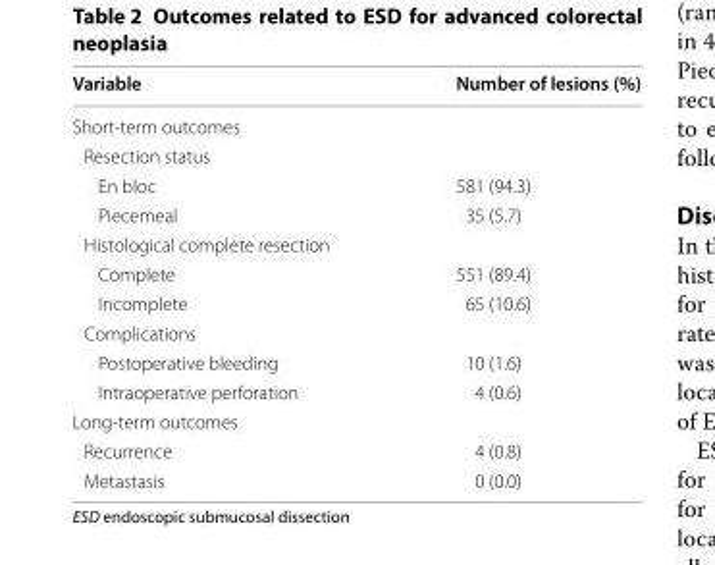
<table><thead><tr><td>Variable</td><td>Number of lesions (%)</td></tr></thead><tbody><tr><td colspan="2">Short‑term outcomes</td></tr><tr><td colspan="2">Resection status</td></tr><tr><td>En bloc</td><td>581 (94.3)</td></tr><tr><td>Piecemeal</td><td>35 (5.7)</td></tr><tr><td colspan="2">Histological complete resection</td></tr><tr><td>Complete</td><td>551 (89.4)</td></tr><tr><td>Incomplete</td><td>65 (10.6)</td></tr><tr><td colspan="2">Complications</td></tr><tr><td>Postoperative bleeding</td><td>10 (1.6)</td></tr><tr><td>Intraoperative perforation</td><td>4 (0.6)</td></tr><tr><td colspan="2">Long‑term outcomes</td></tr><tr><td>Recurrence</td><td>4 (0.8)</td></tr><tr><td>Metastasis</td><td>0 (0.0)</td></tr></tbody></table>